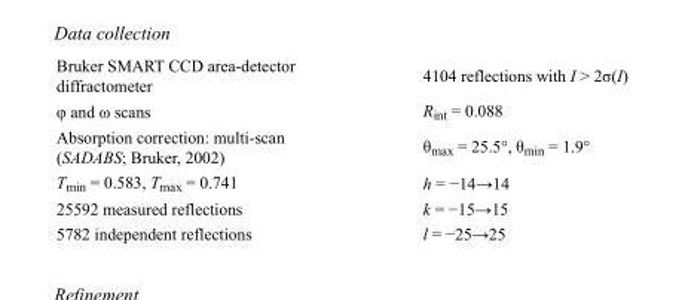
<table><tbody><tr><td>Bruker SMART CCD area-detector diffractometer</td><td>4104 reflections with I &gt; 2σ(I)</td></tr><tr><td>φ and ω scans</td><td>R<sub>int</sub> = 0.088</td></tr><tr><td>Absorption correction: multi-scan (SADABS; Bruker, 2002)</td><td>θ<sub>max</sub> = 25.5°, θ<sub>min</sub> = 1.9°</td></tr><tr><td>T<sub>min</sub> = 0.583, T<sub>max</sub> = 0.741</td><td>h = −14→14</td></tr><tr><td>25592 measured reflections</td><td>k = −15→15</td></tr><tr><td>5782 independent reflections</td><td>l = −25→25</td></tr></tbody></table>